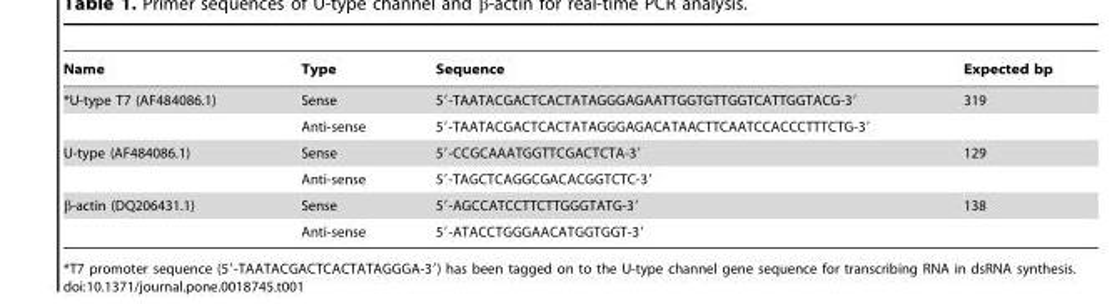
<table><thead><tr><td>Name</td><td>Type</td><td>Sequence</td><td>Expected bp</td></tr></thead><tbody><tr><td rowspan="2">*U-type T7 (AF484086.1)</td><td>Sense</td><td>5′-TAATACGACTCACTATAGGGAGAATTGGTGTTGGTCATTGGTACG-3′</td><td>319</td></tr><tr><td>Anti-sense</td><td>5′-TAATACGACTCACTATAGGGAGACATAACTTCAATCCACCCTTTCTG-3′</td><td></td></tr><tr><td rowspan="2">U-type (AF484086.1)</td><td>Sense</td><td>5′-CCGCAAATGGTTCGACTCTA-3′</td><td>129</td></tr><tr><td>Anti-sense</td><td>5′-TAGCTCAGGCGACACGGTCTC-3′</td><td></td></tr><tr><td rowspan="2">β-actin (DQ206431.1)</td><td>Sense</td><td>5′-AGCCATCCTTCTTGGGTATG-3′</td><td>138</td></tr><tr><td>Anti-sense</td><td>5′-ATACCTGGGAACATGGTGGT-3′</td><td></td></tr></tbody></table>